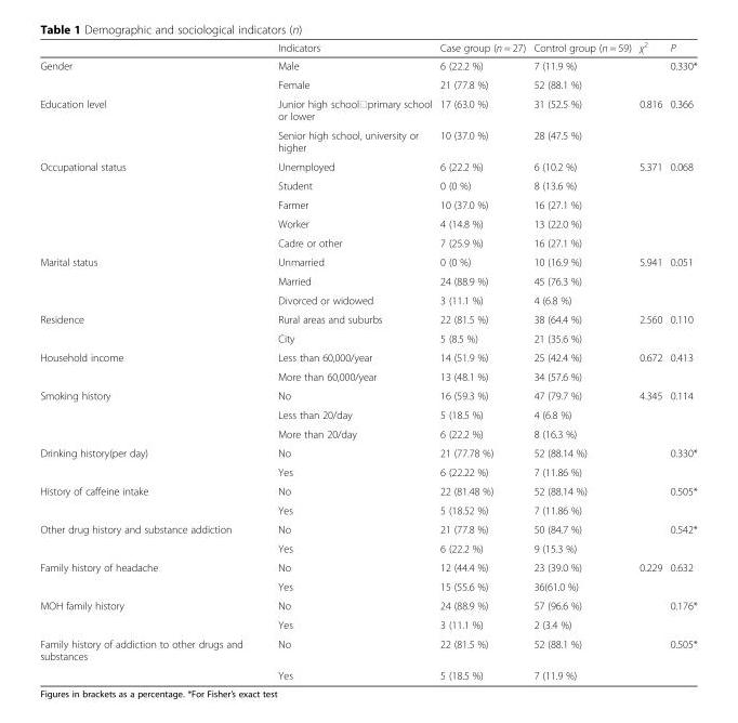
<table><thead><tr><td></td><td>Indicators</td><td>Case group (n = 27)</td><td>Control group (n = 59)</td><td>χ<sup>2</sup></td><td>P</td></tr></thead><tbody><tr><td rowspan="2">Gender</td><td>Male</td><td>6 (22.2 %)</td><td>7 (11.9 %)</td><td></td><td>0.330*</td></tr><tr><td>Female</td><td>21 (77.8 %)</td><td>52 (88.1 %)</td><td></td><td></td></tr><tr><td rowspan="2">Education level</td><td>Junior high school、primary school or lower</td><td>17 (63.0 %)</td><td>31 (52.5 %)</td><td>0.816</td><td>0.366</td></tr><tr><td>Senior high school, university or higher</td><td>10 (37.0 %)</td><td>28 (47.5 %)</td><td></td><td></td></tr><tr><td rowspan="5">Occupational status</td><td>Unemployed</td><td>6 (22.2 %)</td><td>6 (10.2 %)</td><td>5.371</td><td>0.068</td></tr><tr><td>Student</td><td>0 (0 %)</td><td>8 (13.6 %)</td><td></td><td></td></tr><tr><td>Farmer</td><td>10 (37.0 %)</td><td>16 (27.1 %)</td><td></td><td></td></tr><tr><td>Worker</td><td>4 (14.8 %)</td><td>13 (22.0 %)</td><td></td><td></td></tr><tr><td>Cadre or other</td><td>7 (25.9 %)</td><td>16 (27.1 %)</td><td></td><td></td></tr><tr><td rowspan="3">Marital status</td><td>Unmarried</td><td>0 (0 %)</td><td>10 (16.9 %)</td><td>5.941</td><td>0.051</td></tr><tr><td>Married</td><td>24 (88.9 %)</td><td>45 (76.3 %)</td><td></td><td></td></tr><tr><td>Divorced or widowed</td><td>3 (11.1 %)</td><td>4 (6.8 %)</td><td></td><td></td></tr><tr><td rowspan="2">Residence</td><td>Rural areas and suburbs</td><td>22 (81.5 %)</td><td>38 (64.4 %)</td><td>2.560</td><td>0.110</td></tr><tr><td>City</td><td>5 (8.5 %)</td><td>21 (35.6 %)</td><td></td><td></td></tr><tr><td rowspan="2">Household income</td><td>Less than 60,000/year</td><td>14 (51.9 %)</td><td>25 (42.4 %)</td><td>0.672</td><td>0.413</td></tr><tr><td>More than 60,000/year</td><td>13 (48.1 %)</td><td>34 (57.6 %)</td><td></td><td></td></tr><tr><td rowspan="3">Smoking history</td><td>No</td><td>16 (59.3 %)</td><td>47 (79.7 %)</td><td>4.345</td><td>0.114</td></tr><tr><td>Less than 20/day</td><td>5 (18.5 %)</td><td>4 (6.8 %)</td><td></td><td></td></tr><tr><td>More than 20/day</td><td>6 (22.2 %)</td><td>8 (16.3 %)</td><td></td><td></td></tr><tr><td rowspan="2">Drinking history(per day)</td><td>No</td><td>21 (77.78 %)</td><td>52 (88.14 %)</td><td></td><td>0.330*</td></tr><tr><td>Yes</td><td>6 (22.22 %)</td><td>7 (11.86 %)</td><td></td><td></td></tr><tr><td rowspan="2">History of caffeine intake</td><td>No</td><td>22 (81.48 %)</td><td>52 (88.14 %)</td><td></td><td>0.505*</td></tr><tr><td>Yes</td><td>5 (18.52 %)</td><td>7 (11.86 %)</td><td></td><td></td></tr><tr><td rowspan="2">Other drug history and substance addiction</td><td>No</td><td>21 (77.8 %)</td><td>50 (84.7 %)</td><td></td><td>0.542*</td></tr><tr><td>Yes</td><td>6 (22.2 %)</td><td>9 (15.3 %)</td><td></td><td></td></tr><tr><td rowspan="2">Family history of headache</td><td>No</td><td>12 (44.4 %)</td><td>23 (39.0 %)</td><td>0.229</td><td>0.632</td></tr><tr><td>Yes</td><td>15 (55.6 %)</td><td>36(61.0 %)</td><td></td><td></td></tr><tr><td rowspan="2">MOH family history</td><td>No</td><td>24 (88.9 %)</td><td>57 (96.6 %)</td><td></td><td>0.176*</td></tr><tr><td>Yes</td><td>3 (11.1 %)</td><td>2 (3.4 %)</td><td></td><td></td></tr><tr><td rowspan="2">Family history of addiction to other drugs and substances</td><td>No</td><td>22 (81.5 %)</td><td>52 (88.1 %)</td><td></td><td>0.505*</td></tr><tr><td>Yes</td><td>5 (18.5 %)</td><td>7 (11.9 %)</td><td></td><td></td></tr></tbody></table>